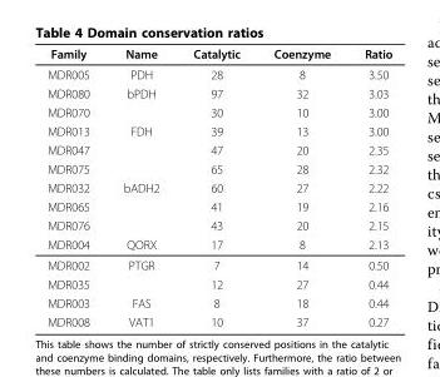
<table><thead><tr><td>Family</td><td>Name</td><td>Catalytic</td><td>Coenzyme</td><td>Ratio</td></tr></thead><tbody><tr><td>MDR005</td><td>PDH</td><td>28</td><td>8</td><td>3.50</td></tr><tr><td>MDR080</td><td>bPDH</td><td>97</td><td>32</td><td>3.03</td></tr><tr><td>MDR070</td><td></td><td>30</td><td>10</td><td>3.00</td></tr><tr><td>MDR013</td><td>FDH</td><td>39</td><td>13</td><td>3.00</td></tr><tr><td>MDR047</td><td></td><td>47</td><td>20</td><td>2.35</td></tr><tr><td>MDR075</td><td></td><td>65</td><td>28</td><td>2.32</td></tr><tr><td>MDR032</td><td>bADH2</td><td>60</td><td>27</td><td>2.22</td></tr><tr><td>MDR065</td><td></td><td>41</td><td>19</td><td>2.16</td></tr><tr><td>MDR076</td><td></td><td>43</td><td>20</td><td>2.15</td></tr><tr><td>MDR004</td><td>QORX</td><td>17</td><td>8</td><td>2.13</td></tr><tr><td>MDR002</td><td>PTGR</td><td>7</td><td>14</td><td>0.50</td></tr><tr><td>MDR035</td><td></td><td>12</td><td>27</td><td>0.44</td></tr><tr><td>MDR003</td><td>FAS</td><td>8</td><td>18</td><td>0.44</td></tr><tr><td>MDR008</td><td>VAT1</td><td>10</td><td>37</td><td>0.27</td></tr></tbody></table>